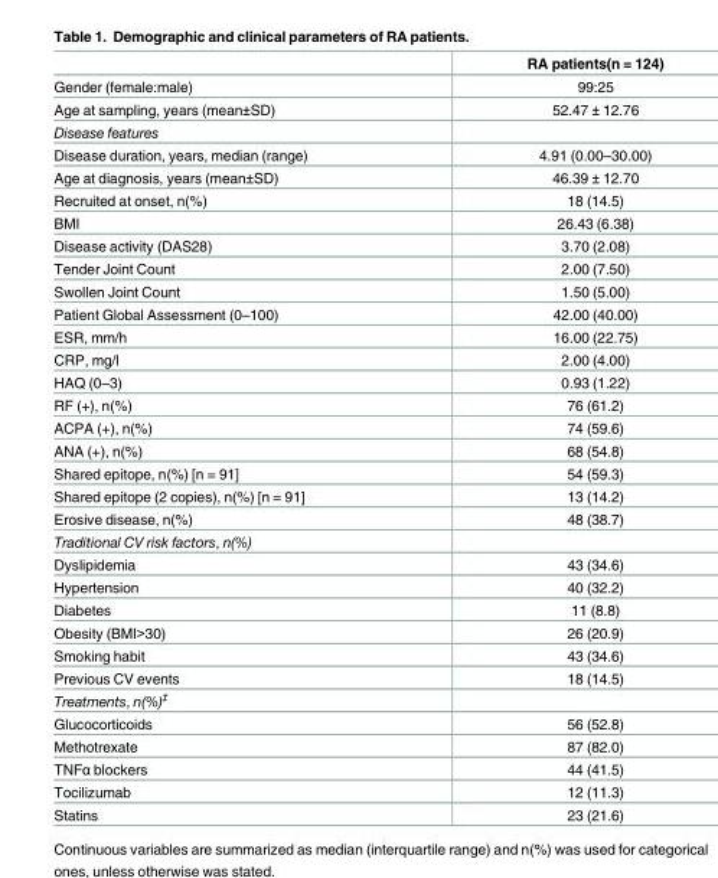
<table><thead><tr><td></td><td>RA patients(n = 124)</td></tr></thead><tbody><tr><td>Gender (female:male)</td><td>99:25</td></tr><tr><td>Age at sampling, years (mean±SD)</td><td>52.47 ± 12.76</td></tr><tr><td colspan="2">Disease features</td></tr><tr><td>Disease duration, years, median (range)</td><td>4.91 (0.00–30.00)</td></tr><tr><td>Age at diagnosis, years (mean±SD)</td><td>46.39 ± 12.70</td></tr><tr><td>Recruited at onset, n(%)</td><td>18 (14.5)</td></tr><tr><td>BMI</td><td>26.43 (6.38)</td></tr><tr><td>Disease activity (DAS28)</td><td>3.70 (2.08)</td></tr><tr><td>Tender Joint Count</td><td>2.00 (7.50)</td></tr><tr><td>Swollen Joint Count</td><td>1.50 (5.00)</td></tr><tr><td>Patient Global Assessment (0–100)</td><td>42.00 (40.00)</td></tr><tr><td>ESR, mm/h</td><td>16.00 (22.75)</td></tr><tr><td>CRP, mg/l</td><td>2.00 (4.00)</td></tr><tr><td>HAQ (0–3)</td><td>0.93 (1.22)</td></tr><tr><td>RF (+), n(%)</td><td>76 (61.2)</td></tr><tr><td>ACPA (+), n(%)</td><td>74 (59.6)</td></tr><tr><td>ANA (+), n(%)</td><td>68 (54.8)</td></tr><tr><td>Shared epitope, n(%) [n = 91]</td><td>54 (59.3)</td></tr><tr><td>Shared epitope (2 copies), n(%) [n = 91]</td><td>13 (14.2)</td></tr><tr><td>Erosive disease, n(%)</td><td>48 (38.7)</td></tr><tr><td colspan="2">Traditional CV risk factors, n(%)</td></tr><tr><td>Dyslipidemia</td><td>43 (34.6)</td></tr><tr><td>Hypertension</td><td>40 (32.2)</td></tr><tr><td>Diabetes</td><td>11 (8.8)</td></tr><tr><td>Obesity (BMI&gt;30)</td><td>26 (20.9)</td></tr><tr><td>Smoking habit</td><td>43 (34.6)</td></tr><tr><td>Previous CV events</td><td>18 (14.5)</td></tr><tr><td colspan="2">Treatments, n(%)<sup>‡</sup></td></tr><tr><td>Glucocorticoids</td><td>56 (52.8)</td></tr><tr><td>Methotrexate</td><td>87 (82.0)</td></tr><tr><td>TNFα blockers</td><td>44 (41.5)</td></tr><tr><td>Tocilizumab</td><td>12 (11.3)</td></tr><tr><td>Statins</td><td>23 (21.6)</td></tr></tbody></table>